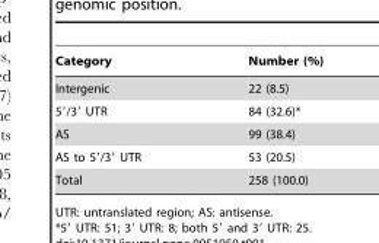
<table><thead><tr><td>Category</td><td>Number (%)</td></tr></thead><tbody><tr><td>Intergenic</td><td>22 (8.5)</td></tr><tr><td>5′/3′ UTR</td><td>84 (32.6)*</td></tr><tr><td>AS</td><td>99 (38.4)</td></tr><tr><td>AS to 5′/3′ UTR</td><td>53 (20.5)</td></tr><tr><td>Total</td><td>258 (100.0)</td></tr></tbody></table>